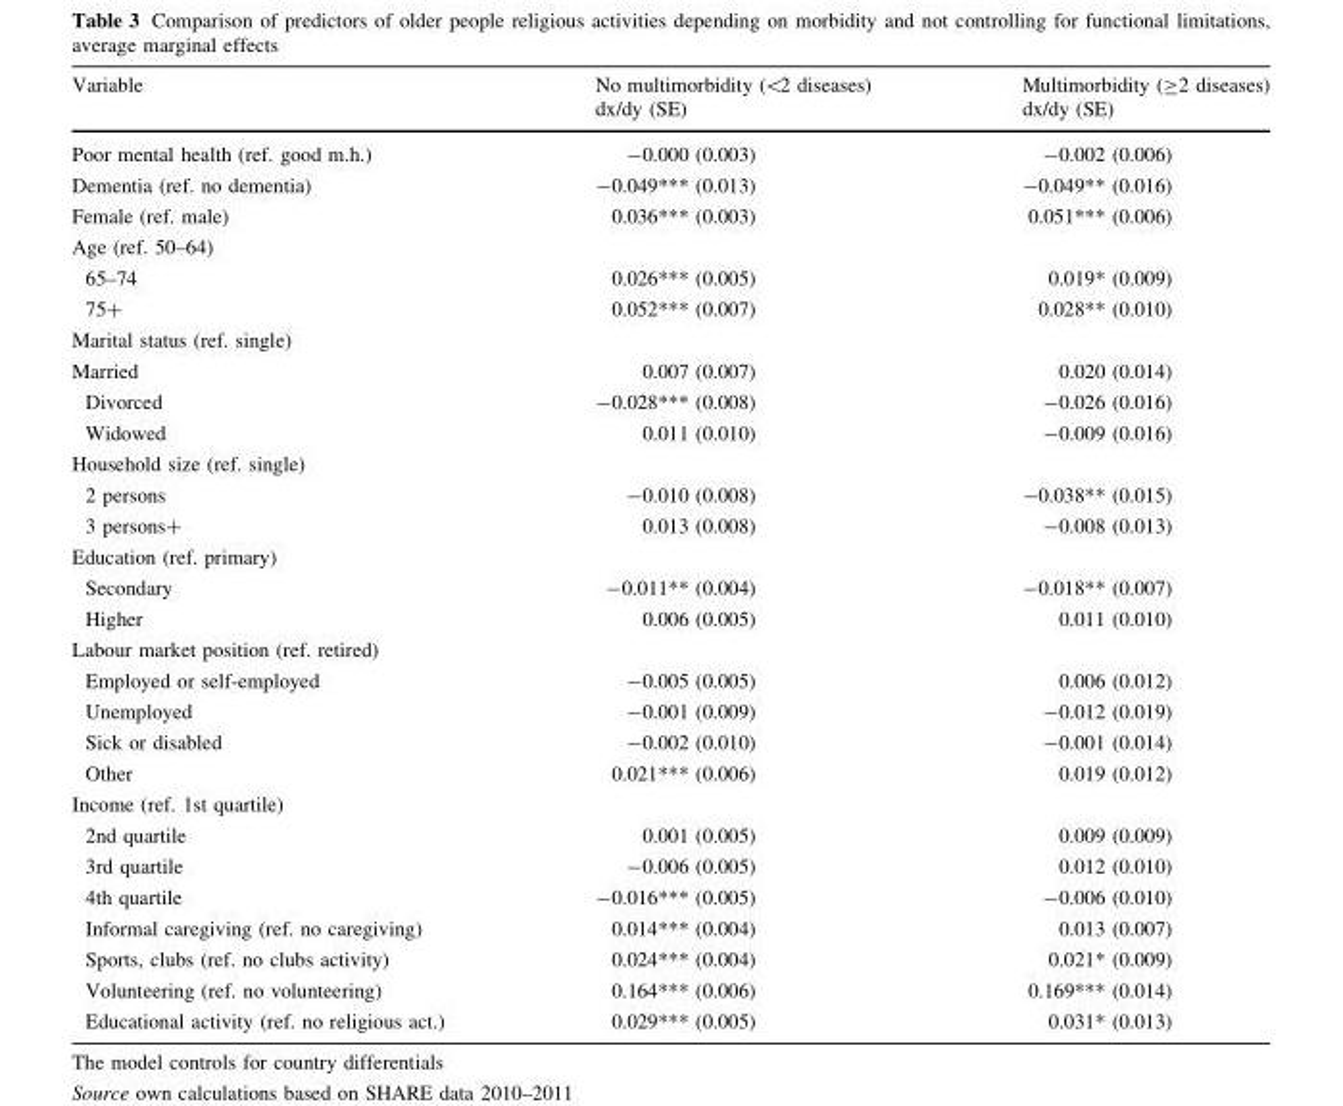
<table><thead><tr><td rowspan="2">Variable</td><td rowspan="2">No multimorbidity (&lt;2 diseases) dx/dy (SE)</td><td rowspan="2">Multimorbidity (≥2 diseases) dx/dy (SE)</td></tr><tr></tr></thead><tbody><tr><td>Poor mental health (ref. good m.h.)</td><td>-0.000 (0.003)</td><td>-0.002 (0.006)</td></tr><tr><td>Dementia (ref. no dementia)</td><td>-0.049*** (0.013)</td><td>-0.049** (0.016)</td></tr><tr><td>Female (ref. male)</td><td>0.036*** (0.003)</td><td>0.051*** (0.006)</td></tr><tr><td colspan="3">Age (ref. 50–64)</td></tr><tr><td>65–74</td><td>0.026*** (0.005)</td><td>0.019* (0.009)</td></tr><tr><td>75+</td><td>0.052*** (0.007)</td><td>0.028** (0.010)</td></tr><tr><td colspan="3">Marital status (ref. single)</td></tr><tr><td>Married</td><td>0.007 (0.007)</td><td>0.020 (0.014)</td></tr><tr><td>Divorced</td><td>-0.028*** (0.008)</td><td>-0.026 (0.016)</td></tr><tr><td>Widowed</td><td>0.011 (0.010)</td><td>-0.009 (0.016)</td></tr><tr><td colspan="3">Household size (ref. single)</td></tr><tr><td>2 persons</td><td>-0.010 (0.008)</td><td>-0.038** (0.015)</td></tr><tr><td>3 persons+</td><td>0.013 (0.008)</td><td>-0.008 (0.013)</td></tr><tr><td colspan="3">Education (ref. primary)</td></tr><tr><td>Secondary</td><td>-0.011** (0.004)</td><td>-0.018** (0.007)</td></tr><tr><td>Higher</td><td>0.006 (0.005)</td><td>0.011 (0.010)</td></tr><tr><td colspan="3">Labour market position (ref. retired)</td></tr><tr><td>Employed or self-employed</td><td>-0.005 (0.005)</td><td>0.006 (0.012)</td></tr><tr><td>Unemployed</td><td>-0.001 (0.009)</td><td>-0.012 (0.019)</td></tr><tr><td>Sick or disabled</td><td>-0.002 (0.010)</td><td>-0.001 (0.014)</td></tr><tr><td>Other</td><td>0.021*** (0.006)</td><td>0.019 (0.012)</td></tr><tr><td colspan="3">Income (ref. 1st quartile)</td></tr><tr><td>2nd quartile</td><td>0.001 (0.005)</td><td>0.009 (0.009)</td></tr><tr><td>3rd quartile</td><td>-0.006 (0.005)</td><td>0.012 (0.010)</td></tr><tr><td>4th quartile</td><td>-0.016*** (0.005)</td><td>-0.006 (0.010)</td></tr><tr><td>Informal caregiving (ref. no caregiving)</td><td>0.014*** (0.004)</td><td>0.013 (0.007)</td></tr><tr><td>Sports, clubs (ref. no clubs activity)</td><td>0.024*** (0.004)</td><td>0.021* (0.009)</td></tr><tr><td>Volunteering (ref. no volunteering)</td><td>0.164*** (0.006)</td><td>0.169*** (0.014)</td></tr><tr><td>Educational activity (ref. no religious act.)</td><td>0.029*** (0.005)</td><td>0.031* (0.013)</td></tr></tbody></table>